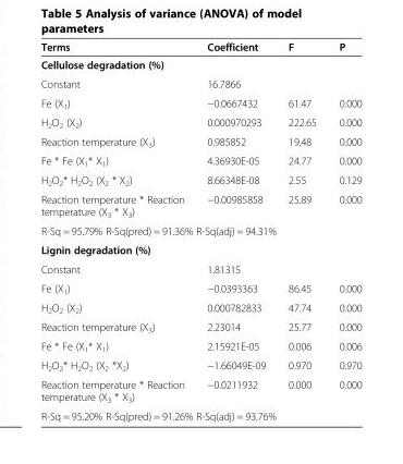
<table><thead><tr><td>Terms</td><td>Coefficient</td><td>F</td><td>P</td></tr></thead><tbody><tr><td colspan="4">Cellulose degradation (%)</td></tr><tr><td>Constant</td><td>16.7866</td><td></td><td></td></tr><tr><td>Fe (X<sub>1</sub>)</td><td>−0.0667432</td><td>61.47</td><td>0.000</td></tr><tr><td>H<sub>2</sub>O<sub>2</sub> (X<sub>2</sub>)</td><td>0.000970293</td><td>222.65</td><td>0.000</td></tr><tr><td>Reaction temperature (X<sub>3</sub>)</td><td>0.985852</td><td>19.48</td><td>0.000</td></tr><tr><td>Fe * Fe (X<sub>1</sub>* X<sub>1</sub>)</td><td>4.36930E-05</td><td>24.77</td><td>0.000</td></tr><tr><td>H<sub>2</sub>O<sub>2</sub>* H<sub>2</sub>O<sub>2</sub> (X<sub>2</sub> * X<sub>2</sub>)</td><td>8.66348E-08</td><td>2.55</td><td>0.129</td></tr><tr><td>Reaction temperature * Reaction temperature (X<sub>3</sub> * X<sub>3</sub>)</td><td>−0.00985858</td><td>25.89</td><td>0.000</td></tr><tr><td colspan="4">R-Sq = 95.79% R-Sq(pred) = 91.36% R-Sq(adj) = 94.31%</td></tr><tr><td colspan="4">Lignin degradation (%)</td></tr><tr><td>Constant</td><td>1.81315</td><td></td><td></td></tr><tr><td>Fe (X<sub>1</sub>)</td><td>−0.0393363</td><td>86.45</td><td>0.000</td></tr><tr><td>H<sub>2</sub>O<sub>2</sub> (X<sub>2</sub>)</td><td>0.000782833</td><td>47.74</td><td>0.000</td></tr><tr><td>Reaction temperature (X<sub>3</sub>)</td><td>2.23014</td><td>25.77</td><td>0.000</td></tr><tr><td>Fe * Fe (X<sub>1</sub>* X<sub>1</sub>)</td><td>2.15921E-05</td><td>0.006</td><td>0.006</td></tr><tr><td>H<sub>2</sub>O<sub>2</sub>* H<sub>2</sub>O<sub>2</sub> (X<sub>2</sub> *X<sub>2</sub>)</td><td>−1.66049E-09</td><td>0.970</td><td>0.970</td></tr><tr><td>Reaction temperature * Reaction temperature (X<sub>3</sub> * X<sub>3</sub>)</td><td>−0.0211932</td><td>0.000</td><td>0.000</td></tr><tr><td colspan="4">R-Sq = 95.20% R-Sq(pred) = 91.26% R-Sq(adj) = 93.76%</td></tr></tbody></table>